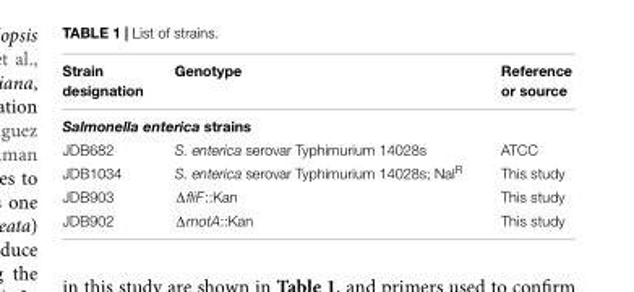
<table><thead><tr><td>Strain designation</td><td>Genotype</td><td>Reference or source</td></tr></thead><tbody><tr><td colspan="3">Salmonella enterica strains</td></tr><tr><td>JDB682</td><td>S. enterica serovar Typhimurium 14028s</td><td>ATCC</td></tr><tr><td>JDB1034</td><td>S. enterica serovar Typhimurium 14028s; Nal<sup>R</sup></td><td>This study</td></tr><tr><td>JDB903</td><td>ΔfliF::Kan</td><td>This study</td></tr><tr><td>JDB902</td><td>ΔmotA::Kan</td><td>This study</td></tr></tbody></table>